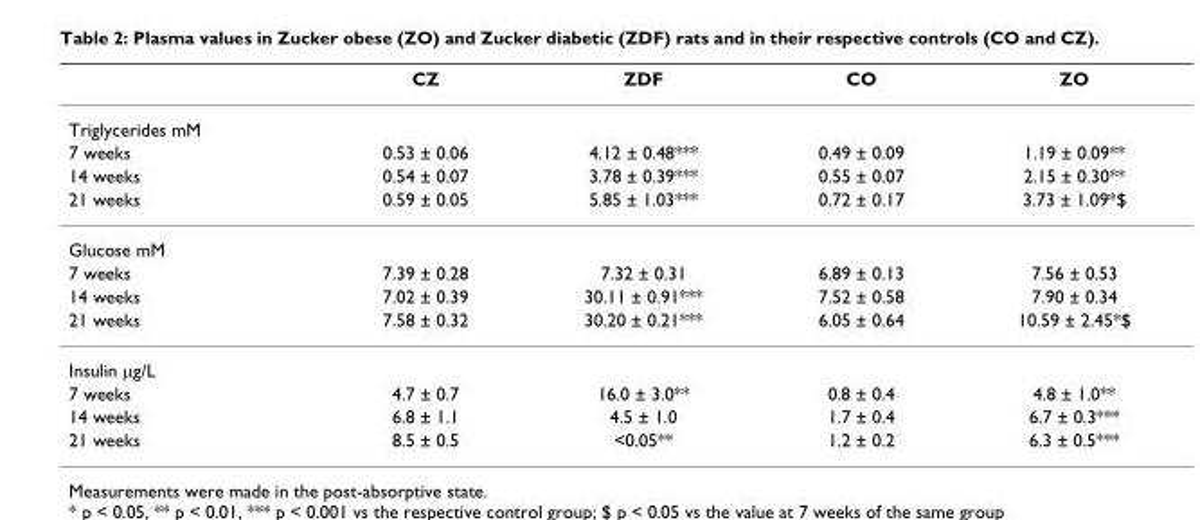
<table><thead><tr><td></td><td>CZ</td><td>ZDF</td><td>CO</td><td>ZO</td></tr></thead><tbody><tr><td colspan="5">Triglycerides mM</td></tr><tr><td>7 weeks</td><td>0.53 ± 0.06</td><td>4.12 ± 0.48***</td><td>0.49 ± 0.09</td><td>1.19 ± 0.09**</td></tr><tr><td>14 weeks</td><td>0.54 ± 0.07</td><td>3.78 ± 0.39***</td><td>0.55 ± 0.07</td><td>2.15 ± 0.30**</td></tr><tr><td>21 weeks</td><td>0.59 ± 0.05</td><td>5.85 ± 1.03***</td><td>0.72 ± 0.17</td><td>3.73 ± 1.09*$</td></tr><tr><td colspan="5">Glucose mM</td></tr><tr><td>7 weeks</td><td>7.39 ± 0.28</td><td>7.32 ± 0.31</td><td>6.89 ± 0.13</td><td>7.56 ± 0.53</td></tr><tr><td>14 weeks</td><td>7.02 ± 0.39</td><td>30.11 ± 0.91***</td><td>7.52 ± 0.58</td><td>7.90 ± 0.34</td></tr><tr><td>21 weeks</td><td>7.58 ± 0.32</td><td>30.20 ± 0.21***</td><td>6.05 ± 0.64</td><td>10.59 ± 2.45*$</td></tr><tr><td colspan="5">Insulin μg/L</td></tr><tr><td>7 weeks</td><td>4.7 ± 0.7</td><td>16.0 ± 3.0**</td><td>0.8 ± 0.4</td><td>4.8 ± 1.0**</td></tr><tr><td>14 weeks</td><td>6.8 ± 1.1</td><td>4.5 ± 1.0</td><td>1.7 ± 0.4</td><td>6.7 ± 0.3***</td></tr><tr><td>21 weeks</td><td>8.5 ± 0.5</td><td>&lt;0.05**</td><td>1.2 ± 0.2</td><td>6.3 ± 0.5***</td></tr></tbody></table>